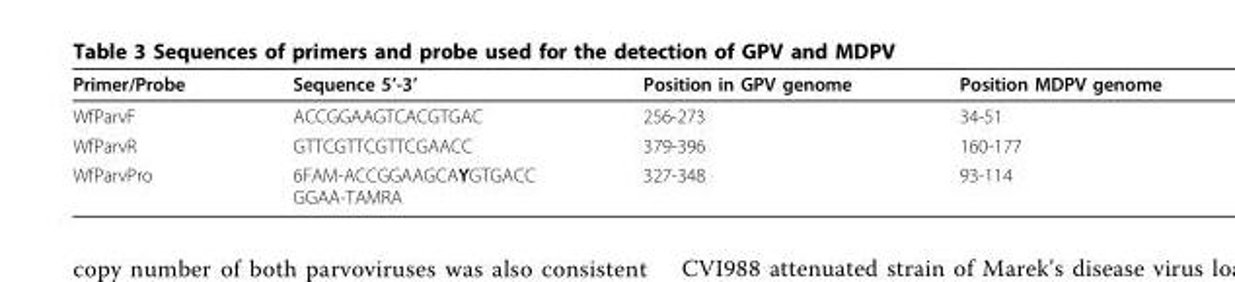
<table><thead><tr><td>Primer/Probe</td><td>Sequence 5’-3’</td><td>Position in GPV genome</td><td>Position MDPV genome</td></tr></thead><tbody><tr><td>WfParvF</td><td>ACCGGAAGTCACGTGAC</td><td>256-273</td><td>34-51</td></tr><tr><td>WfParvR</td><td>GTTCGTTCGTTCGAACC</td><td>379-396</td><td>160-177</td></tr><tr><td>WfParvPro</td><td>6FAM-ACCGGAAGCAYGTGACC GGAA-TAMRA</td><td>327-348</td><td>93-114</td></tr></tbody></table>